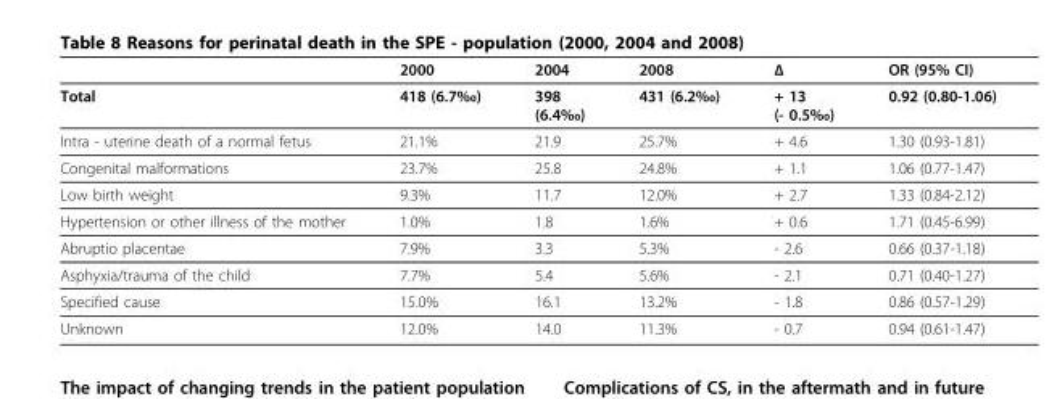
<table><thead><tr><td></td><td>2000</td><td>2004</td><td>2008</td><td>Δ</td><td>OR (95% CI)</td></tr></thead><tbody><tr><td>Total</td><td>418 (6.7‰)</td><td>398 (6.4‰)</td><td>431 (6.2‰)</td><td>+ 13 (- 0.5‰)</td><td>0.92 (0.80-1.06)</td></tr><tr><td>Intra - uterine death of a normal fetus</td><td>21.1%</td><td>21.9</td><td>25.7%</td><td>+ 4.6</td><td>1.30 (0.93-1.81)</td></tr><tr><td>Congenital malformations</td><td>23.7%</td><td>25.8</td><td>24.8%</td><td>+ 1.1</td><td>1.06 (0.77-1.47)</td></tr><tr><td>Low birth weight</td><td>9.3%</td><td>11.7</td><td>12.0%</td><td>+ 2.7</td><td>1.33 (0.84-2.12)</td></tr><tr><td>Hypertension or other illness of the mother</td><td>1.0%</td><td>1.8</td><td>1.6%</td><td>+ 0.6</td><td>1.71 (0.45-6.99)</td></tr><tr><td>Abruptio placentae</td><td>7.9%</td><td>3.3</td><td>5.3%</td><td>- 2.6</td><td>0.66 (0.37-1.18)</td></tr><tr><td>Asphyxia/trauma of the child</td><td>7.7%</td><td>5.4</td><td>5.6%</td><td>- 2.1</td><td>0.71 (0.40-1.27)</td></tr><tr><td>Specified cause</td><td>15.0%</td><td>16.1</td><td>13.2%</td><td>- 1.8</td><td>0.86 (0.57-1.29)</td></tr><tr><td>Unknown</td><td>12.0%</td><td>14.0</td><td>11.3%</td><td>- 0.7</td><td>0.94 (0.61-1.47)</td></tr></tbody></table>